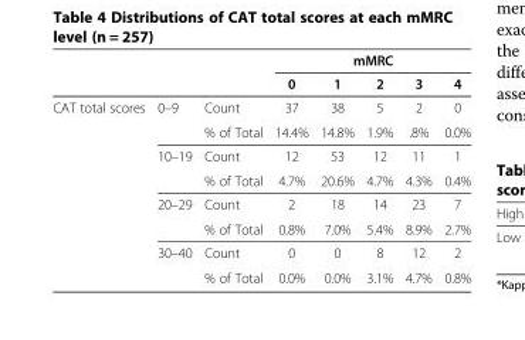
<table><thead><tr><td rowspan="2"></td><td rowspan="2"></td><td rowspan="2"></td><td colspan="5">mMRC</td></tr><tr><td>0</td><td>1</td><td>2</td><td>3</td><td>4</td></tr></thead><tbody><tr><td rowspan="8">CAT total scores</td><td>0–9</td><td>Count</td><td>37</td><td>38</td><td>5</td><td>2</td><td>0</td></tr><tr><td></td><td>% of Total</td><td>14.4%</td><td>14.8%</td><td>1.9%</td><td>.8%</td><td>0.0%</td></tr><tr><td>10–19</td><td>Count</td><td>12</td><td>53</td><td>12</td><td>11</td><td>1</td></tr><tr><td></td><td>% of Total</td><td>4.7%</td><td>20.6%</td><td>4.7%</td><td>4.3%</td><td>0.4%</td></tr><tr><td>20–29</td><td>Count</td><td>2</td><td>18</td><td>14</td><td>23</td><td>7</td></tr><tr><td></td><td>% of Total</td><td>0.8%</td><td>7.0%</td><td>5.4%</td><td>8.9%</td><td>2.7%</td></tr><tr><td>30–40</td><td>Count</td><td>0</td><td>0</td><td>8</td><td>12</td><td>2</td></tr><tr><td></td><td>% of Total</td><td>0.0%</td><td>0.0%</td><td>3.1%</td><td>4.7%</td><td>0.8%</td></tr></tbody></table>